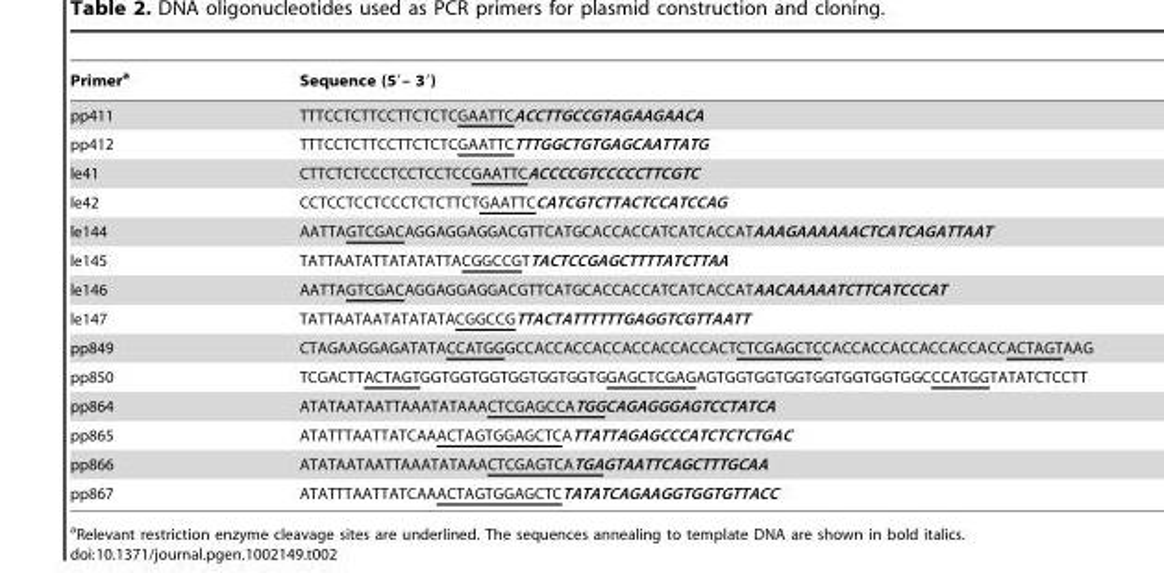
<table><thead><tr><td>Primer<sup>a</sup></td><td>Sequence (5′– 3′)</td></tr></thead><tbody><tr><td>pp411</td><td>TTTCCTCTTCCTTCTCTCGAATTCACCTTGCCGTAGAAGAACA</td></tr><tr><td>pp412</td><td>TTTCCTCTTCCTTCTCTCGAATTCTTTGGCTGTGAGCAATTATG</td></tr><tr><td>le41</td><td>CTTCTCTCCCTCCTCCTCCGAATTCACCCCGTCCCCCTTCGTC</td></tr><tr><td>le42</td><td>CCTCCTCCTCCCTCTCTTCTGAATTCCATCGTCTTACTCCATCCAG</td></tr><tr><td>le144</td><td>AATTAGTCGACAGGAGGAGGACGTTCATGCACCACCATCATCACCATAAAGAAAAAACTCATCAGATTAAT</td></tr><tr><td>le145</td><td>TATTAATATTATATATTACGGCCGTTACTCCGAGCTTTTATCTTAA</td></tr><tr><td>le146</td><td>AATTAGTCGACAGGAGGAGGACGTTCATGCACCACCATCATCACCATAACAAAAATCTTCATCCCAT</td></tr><tr><td>le147</td><td>TATTAATAATATATATACGGCCGTTACTATTTTTTGAGGTCGTTAATT</td></tr><tr><td>pp849</td><td>CTAGAAGGAGATATACCATGGGCCACCACCACCACCACCACCACTCTCGAGCTCCACCACCACCACCACCACCACTAGTAAG</td></tr><tr><td>pp850</td><td>TCGACTTACTAGTGGTGGTGGTGGTGGTGGTGGAGCTCGAGAGTGGTGGTGGTGGTGGTGGTGGCCCATGGTATATCTCCTT</td></tr><tr><td>pp864</td><td>ATATAATAATTAAATATAAACTCGAGCCATGGCAGAGGGAGTCCTATCA</td></tr><tr><td>pp865</td><td>ATATTTAATTATCAAACTAGTGGAGCTCATTATTAGAGCCCATCTCTCTGAC</td></tr><tr><td>pp866</td><td>ATATAATAATTAAATATAAACTCGAGTCATGAGTAATTCAGCTTTGCAA</td></tr><tr><td>pp867</td><td>ATATTTAATTATCAAACTAGTGGAGCTCTATATCAGAAGGTGGTGTTACC</td></tr></tbody></table>